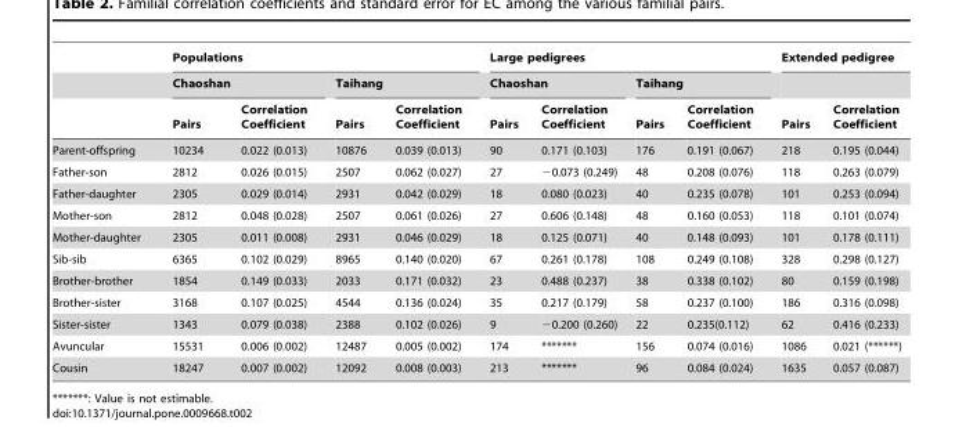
<table><thead><tr><td rowspan="3"></td><td colspan="4">Populations</td><td colspan="4">Large pedigrees</td><td colspan="2">Extended pedigree</td></tr><tr><td colspan="2">Chaoshan</td><td colspan="2">Taihang</td><td colspan="2">Chaoshan</td><td colspan="2">Taihang</td><td rowspan="2">Pairs</td><td rowspan="2">Correlation Coefficient</td></tr><tr><td>Pairs</td><td>Correlation Coefficient</td><td>Pairs</td><td>Correlation Coefficient</td><td>Pairs</td><td>Correlation Coefficient</td><td>Pairs</td><td>Correlation Coefficient</td></tr></thead><tbody><tr><td>Parent-offspring</td><td>10234</td><td>0.022 (0.013)</td><td>10876</td><td>0.039 (0.013)</td><td>90</td><td>0.171 (0.103)</td><td>176</td><td>0.191 (0.067)</td><td>218</td><td>0.195 (0.044)</td></tr><tr><td>Father-son</td><td>2812</td><td>0.026 (0.015)</td><td>2507</td><td>0.062 (0.027)</td><td>27</td><td>−0.073 (0.249)</td><td>48</td><td>0.208 (0.076)</td><td>118</td><td>0.263 (0.079)</td></tr><tr><td>Father-daughter</td><td>2305</td><td>0.029 (0.014)</td><td>2931</td><td>0.042 (0.029)</td><td>18</td><td>0.080 (0.023)</td><td>40</td><td>0.235 (0.078)</td><td>101</td><td>0.253 (0.094)</td></tr><tr><td>Mother-son</td><td>2812</td><td>0.048 (0.028)</td><td>2507</td><td>0.061 (0.026)</td><td>27</td><td>0.606 (0.148)</td><td>48</td><td>0.160 (0.053)</td><td>118</td><td>0.101 (0.074)</td></tr><tr><td>Mother-daughter</td><td>2305</td><td>0.011 (0.008)</td><td>2931</td><td>0.046 (0.029)</td><td>18</td><td>0.125 (0.071)</td><td>40</td><td>0.148 (0.093)</td><td>101</td><td>0.178 (0.111)</td></tr><tr><td>Sib-sib</td><td>6365</td><td>0.102 (0.029)</td><td>8965</td><td>0.140 (0.020)</td><td>67</td><td>0.261 (0.178)</td><td>108</td><td>0.249 (0.108)</td><td>328</td><td>0.298 (0.127)</td></tr><tr><td>Brother-brother</td><td>1854</td><td>0.149 (0.033)</td><td>2033</td><td>0.171 (0.032)</td><td>23</td><td>0.488 (0.237)</td><td>38</td><td>0.338 (0.102)</td><td>80</td><td>0.159 (0.198)</td></tr><tr><td>Brother-sister</td><td>3168</td><td>0.107 (0.025)</td><td>4544</td><td>0.136 (0.024)</td><td>35</td><td>0.217 (0.179)</td><td>58</td><td>0.237 (0.100)</td><td>186</td><td>0.316 (0.098)</td></tr><tr><td>Sister-sister</td><td>1343</td><td>0.079 (0.038)</td><td>2388</td><td>0.102 (0.026)</td><td>9</td><td>−0.200 (0.260)</td><td>22</td><td>0.235(0.112)</td><td>62</td><td>0.416 (0.233)</td></tr><tr><td>Avuncular</td><td>15531</td><td>0.006 (0.002)</td><td>12487</td><td>0.005 (0.002)</td><td>174</td><td>*******</td><td>156</td><td>0.074 (0.016)</td><td>1086</td><td>0.021 (******)</td></tr><tr><td>Cousin</td><td>18247</td><td>0.007 (0.002)</td><td>12092</td><td>0.008 (0.003)</td><td>213</td><td>*******</td><td>96</td><td>0.084 (0.024)</td><td>1635</td><td>0.057 (0.087)</td></tr></tbody></table>